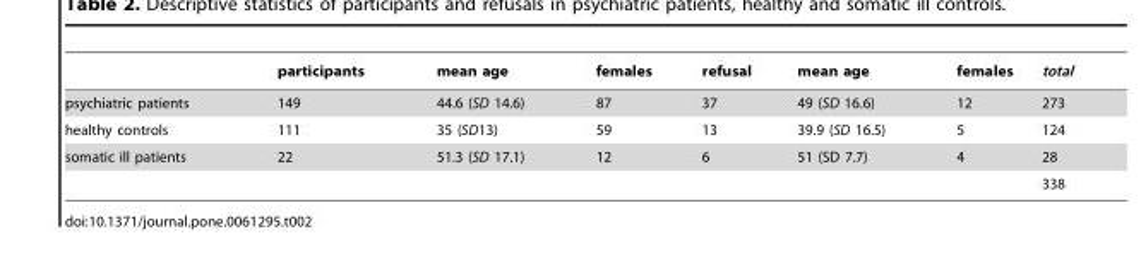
<table><thead><tr><td></td><td>participants</td><td>mean age</td><td>females</td><td>refusal</td><td>mean age</td><td>females</td><td>total</td></tr></thead><tbody><tr><td>psychiatric patients</td><td>149</td><td>44.6 (SD 14.6)</td><td>87</td><td>37</td><td>49 (SD 16.6)</td><td>12</td><td>273</td></tr><tr><td>healthy controls</td><td>111</td><td>35 (SD13)</td><td>59</td><td>13</td><td>39.9 (SD 16.5)</td><td>5</td><td>124</td></tr><tr><td rowspan="2">somatic ill patients</td><td>22</td><td>51.3 (SD 17.1)</td><td>12</td><td>6</td><td>51 (SD 7.7)</td><td>4</td><td>28</td></tr><tr><td></td><td></td><td></td><td></td><td></td><td></td><td>338</td></tr></tbody></table>